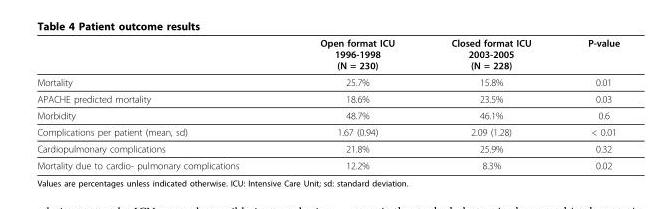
<table><thead><tr><td></td><td>Open format ICU 1996-1998 (N = 230)</td><td>Closed format ICU 2003-2005 (N = 228)</td><td>P-value</td></tr></thead><tbody><tr><td>Mortality</td><td>25.7%</td><td>15.8%</td><td>0.01</td></tr><tr><td>APACHE predicted mortality</td><td>18.6%</td><td>23.5%</td><td>0.03</td></tr><tr><td>Morbidity</td><td>48.7%</td><td>46.1%</td><td>0.6</td></tr><tr><td>Complications per patient (mean, sd)</td><td>1.67 (0.94)</td><td>2.09 (1.28)</td><td>&lt; 0.01</td></tr><tr><td>Cardiopulmonary complications</td><td>21.8%</td><td>25.9%</td><td>0.32</td></tr><tr><td>Mortality due to cardio- pulmonary complications</td><td>12.2%</td><td>8.3%</td><td>0.02</td></tr></tbody></table>